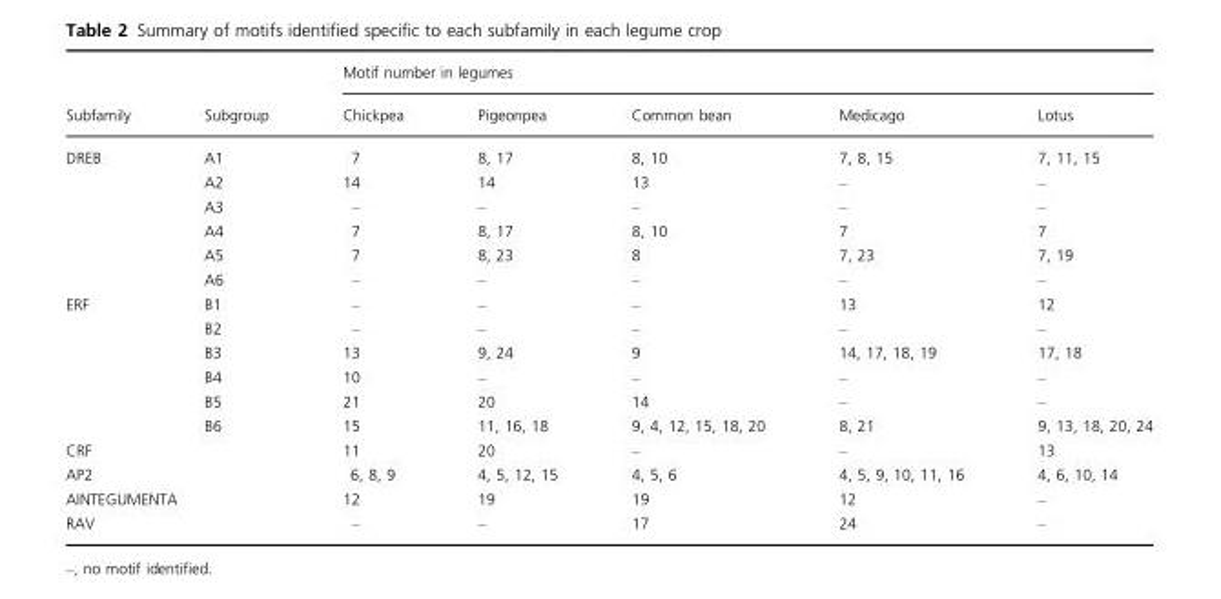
<table><thead><tr><td rowspan="2">Subfamily</td><td rowspan="2">Subgroup</td><td colspan="5">Motif number in legumes</td></tr><tr><td>Chickpea</td><td>Pigeonpea</td><td>Common bean</td><td>Medicago</td><td>Lotus</td></tr></thead><tbody><tr><td rowspan="6">DREB</td><td>A1</td><td>7</td><td>8, 17</td><td>8, 10</td><td>7, 8, 15</td><td>7, 11, 15</td></tr><tr><td>A2</td><td>14</td><td>14</td><td>13</td><td>–</td><td>–</td></tr><tr><td>A3</td><td>–</td><td>–</td><td>–</td><td>–</td><td>–</td></tr><tr><td>A4</td><td>7</td><td>8, 17</td><td>8, 10</td><td>7</td><td>7</td></tr><tr><td>A5</td><td>7</td><td>8, 23</td><td>8</td><td>7, 23</td><td>7, 19</td></tr><tr><td>A6</td><td>–</td><td>–</td><td>–</td><td>–</td><td>–</td></tr><tr><td rowspan="6">ERF</td><td>B1</td><td>–</td><td>–</td><td>–</td><td>13</td><td>12</td></tr><tr><td>B2</td><td>–</td><td>–</td><td>–</td><td>–</td><td>–</td></tr><tr><td>B3</td><td>13</td><td>9, 24</td><td>9</td><td>14, 17, 18, 19</td><td>17, 18</td></tr><tr><td>B4</td><td>10</td><td>–</td><td>–</td><td>–</td><td>–</td></tr><tr><td>B5</td><td>21</td><td>20</td><td>14</td><td>–</td><td>–</td></tr><tr><td>B6</td><td>15</td><td>11, 16, 18</td><td>9, 4, 12, 15, 18, 20</td><td>8, 21</td><td>9, 13, 18, 20, 24</td></tr><tr><td colspan="2">CRF</td><td>11</td><td>20</td><td>–</td><td>–</td><td>13</td></tr><tr><td colspan="2">AP2</td><td>6, 8, 9</td><td>4, 5, 12, 15</td><td>4, 5, 6</td><td>4, 5, 9, 10, 11, 16</td><td>4, 6, 10, 14</td></tr><tr><td colspan="2">AINTEGUMENTA</td><td>12</td><td>19</td><td>19</td><td>12</td><td>–</td></tr><tr><td colspan="2">RAV</td><td>–</td><td>–</td><td>17</td><td>24</td><td>–</td></tr></tbody></table>